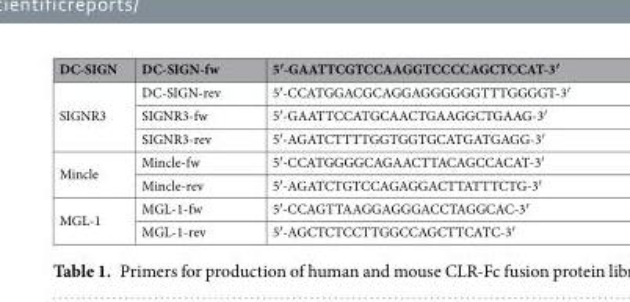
<table><thead><tr><td>DC-SIGN</td><td>DC-SIGN-fw</td><td>5′-GAATTCGTCCAAGGTCCCCAGCTCCAT-3′</td></tr></thead><tbody><tr><td rowspan="3">SIGNR3</td><td>DC-SIGN-rev</td><td>5′-CCATGGACGCAGGAGGGGGGTTTGGGGT-3′</td></tr><tr><td>SIGNR3-fw</td><td>5′-GAATTCCATGCAACTGAAGGCTGAAG-3′</td></tr><tr><td>SIGNR3-rev</td><td>5′-AGATCTTTTGGTGGTGCATGATGAGG-3′</td></tr><tr><td rowspan="2">Mincle</td><td>Mincle-fw</td><td>5′-CCATGGGGCAGAACTTACAGCCACAT-3′</td></tr><tr><td>Mincle-rev</td><td>5′-AGATCTGTCCAGAGGACTTATTTCTG-3′</td></tr><tr><td rowspan="2">MGL-1</td><td>MGL-1-fw</td><td>5′-CCAGTTAAGGAGGGACCTAGGCAC-3′</td></tr><tr><td>MGL-1-rev</td><td>5′-AGCTCTCCTTGGCCAGCTTCATC-3′</td></tr></tbody></table>